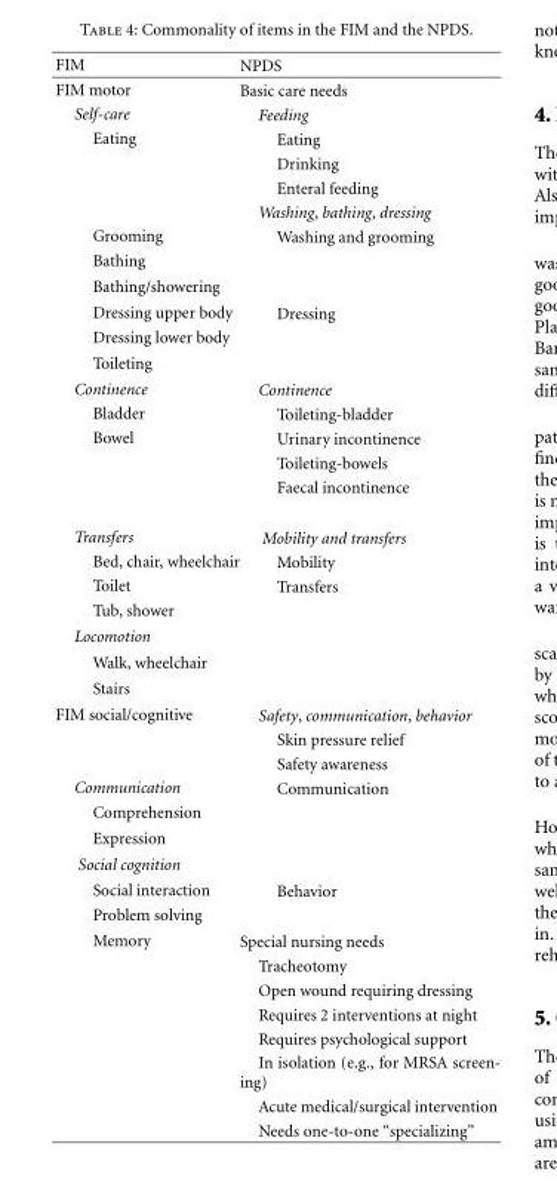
<table><thead><tr><td>FIM</td><td>NPDS</td></tr></thead><tbody><tr><td>FIM motor</td><td>Basic care needs</td></tr><tr><td>Self-care</td><td>Feeding</td></tr><tr><td rowspan="4">Eating</td><td>Eating</td></tr><tr><td>Drinking</td></tr><tr><td>Enteral feeding</td></tr><tr><td>Washing, bathing, dressing</td></tr><tr><td>Grooming</td><td>Washing and grooming</td></tr><tr><td colspan="2">Bathing</td></tr><tr><td colspan="2">Bathing/showering</td></tr><tr><td>Dressing upper body</td><td>Dressing</td></tr><tr><td colspan="2">Dressing lower body</td></tr><tr><td colspan="2">Toileting</td></tr><tr><td>Continence</td><td>Continence</td></tr><tr><td>Bladder</td><td>Toileting-bladder</td></tr><tr><td rowspan="3">Bowel</td><td>Urinary incontinence</td></tr><tr><td>Toileting-bowels</td></tr><tr><td>Faecal incontinence</td></tr><tr><td>Transfers</td><td>Mobility and transfers</td></tr><tr><td>Bed, chair, wheelchair</td><td>Mobility</td></tr><tr><td>Toilet</td><td>Transfers</td></tr><tr><td colspan="2">Tub, shower</td></tr><tr><td colspan="2">Locomotion</td></tr><tr><td colspan="2">Walk, wheelchair</td></tr><tr><td colspan="2">Stairs</td></tr><tr><td rowspan="3">FIM social/cognitive</td><td>Safety, communication, behavior</td></tr><tr><td>Skin pressure relief</td></tr><tr><td>Safety awareness</td></tr><tr><td>Communication</td><td>Communication</td></tr><tr><td colspan="2">Comprehension</td></tr><tr><td colspan="2">Expression</td></tr><tr><td colspan="2">Social cognition</td></tr><tr><td>Social interaction</td><td>Behavior</td></tr><tr><td colspan="2">Problem solving</td></tr><tr><td rowspan="8">Memory</td><td>Special nursing needs</td></tr><tr><td>Tracheotomy</td></tr><tr><td>Open wound requiring dressing</td></tr><tr><td>Requires 2 interventions at night</td></tr><tr><td>Requires psychological support</td></tr><tr><td>In isolation (e.g., for MRSA screen- ing)</td></tr><tr><td>Acute medical/surgical intervention</td></tr><tr><td>Needs one-to-one “specializing”</td></tr></tbody></table>